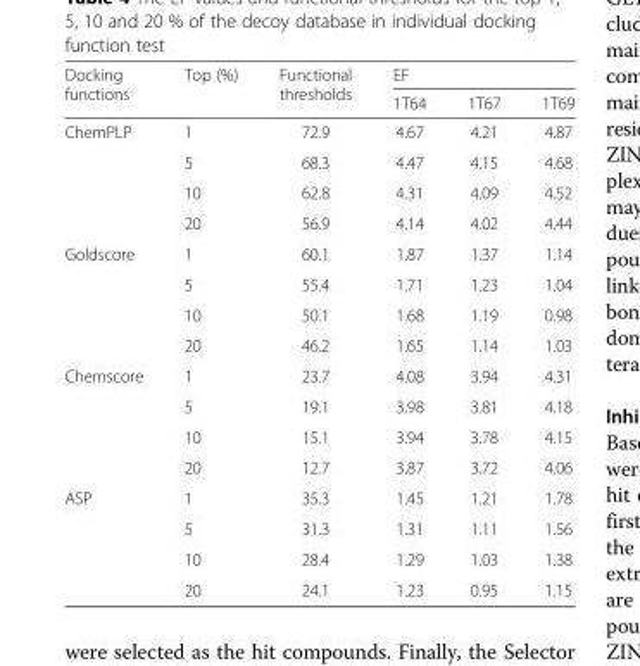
<table><thead><tr><td rowspan="2">Docking functions</td><td rowspan="2">Top (%)</td><td rowspan="2">Functional thresholds</td><td colspan="3">EF</td></tr><tr><td>1T64</td><td>1T67</td><td>1T69</td></tr></thead><tbody><tr><td rowspan="4">ChemPLP</td><td>1</td><td>72.9</td><td>4.67</td><td>4.21</td><td>4.87</td></tr><tr><td>5</td><td>68.3</td><td>4.47</td><td>4.15</td><td>4.68</td></tr><tr><td>10</td><td>62.8</td><td>4.31</td><td>4.09</td><td>4.52</td></tr><tr><td>20</td><td>56.9</td><td>4.14</td><td>4.02</td><td>4.44</td></tr><tr><td rowspan="4">Goldscore</td><td>1</td><td>60.1</td><td>1.87</td><td>1.37</td><td>1.14</td></tr><tr><td>5</td><td>55.4</td><td>1.71</td><td>1.23</td><td>1.04</td></tr><tr><td>10</td><td>50.1</td><td>1.68</td><td>1.19</td><td>0.98</td></tr><tr><td>20</td><td>46.2</td><td>1.65</td><td>1.14</td><td>1.03</td></tr><tr><td rowspan="4">Chemscore</td><td>1</td><td>23.7</td><td>4.08</td><td>3.94</td><td>4.31</td></tr><tr><td>5</td><td>19.1</td><td>3.98</td><td>3.81</td><td>4.18</td></tr><tr><td>10</td><td>15.1</td><td>3.94</td><td>3.78</td><td>4.15</td></tr><tr><td>20</td><td>12.7</td><td>3.87</td><td>3.72</td><td>4.06</td></tr><tr><td rowspan="4">ASP</td><td>1</td><td>35.3</td><td>1.45</td><td>1.21</td><td>1.78</td></tr><tr><td>5</td><td>31.3</td><td>1.31</td><td>1.11</td><td>1.56</td></tr><tr><td>10</td><td>28.4</td><td>1.29</td><td>1.03</td><td>1.38</td></tr><tr><td>20</td><td>24.1</td><td>1.23</td><td>0.95</td><td>1.15</td></tr></tbody></table>